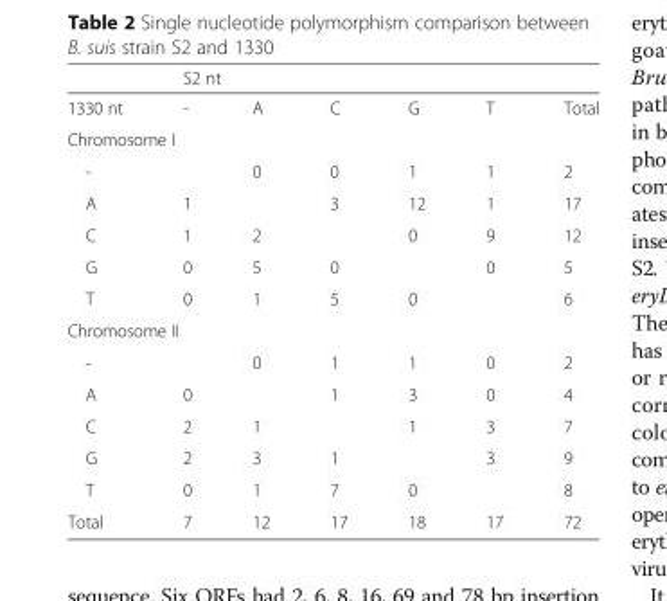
<table><thead><tr><td rowspan="2">1330 nt</td><td colspan="6">S2 nt</td></tr><tr><td>-</td><td>A</td><td>C</td><td>G</td><td>T</td><td>Total</td></tr></thead><tbody><tr><td colspan="7">Chromosome I</td></tr><tr><td>-</td><td></td><td>0</td><td>0</td><td>1</td><td>1</td><td>2</td></tr><tr><td>A</td><td>1</td><td></td><td>3</td><td>12</td><td>1</td><td>17</td></tr><tr><td>C</td><td>1</td><td>2</td><td></td><td>0</td><td>9</td><td>12</td></tr><tr><td>G</td><td>0</td><td>5</td><td>0</td><td></td><td>0</td><td>5</td></tr><tr><td>T</td><td>0</td><td>1</td><td>5</td><td>0</td><td></td><td>6</td></tr><tr><td colspan="7">Chromosome II</td></tr><tr><td>-</td><td></td><td>0</td><td>1</td><td>1</td><td>0</td><td>2</td></tr><tr><td>A</td><td>0</td><td></td><td>1</td><td>3</td><td>0</td><td>4</td></tr><tr><td>C</td><td>2</td><td>1</td><td></td><td>1</td><td>3</td><td>7</td></tr><tr><td>G</td><td>2</td><td>3</td><td>1</td><td></td><td>3</td><td>9</td></tr><tr><td>T</td><td>0</td><td>1</td><td>7</td><td>0</td><td></td><td>8</td></tr><tr><td>Total</td><td>7</td><td>12</td><td>17</td><td>18</td><td>17</td><td>72</td></tr></tbody></table>